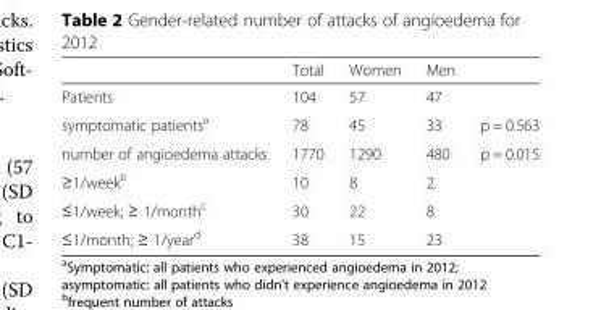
<table><thead><tr><td></td><td>Total</td><td>Women</td><td>Men</td><td></td></tr></thead><tbody><tr><td>Patients</td><td>104</td><td>57</td><td>47</td><td></td></tr><tr><td>symptomatic patients<sup>a</sup></td><td>78</td><td>45</td><td>33</td><td>p = 0.563</td></tr><tr><td>number of angioedema attacks</td><td>1770</td><td>1290</td><td>480</td><td>p = 0.015</td></tr><tr><td>≥1/week<sup>b</sup></td><td>10</td><td>8</td><td>2</td><td></td></tr><tr><td>≤1/week; ≥ 1/month<sup>c</sup></td><td>30</td><td>22</td><td>8</td><td></td></tr><tr><td>≤1/month; ≥ 1/year<sup>d</sup></td><td>38</td><td>15</td><td>23</td><td></td></tr></tbody></table>